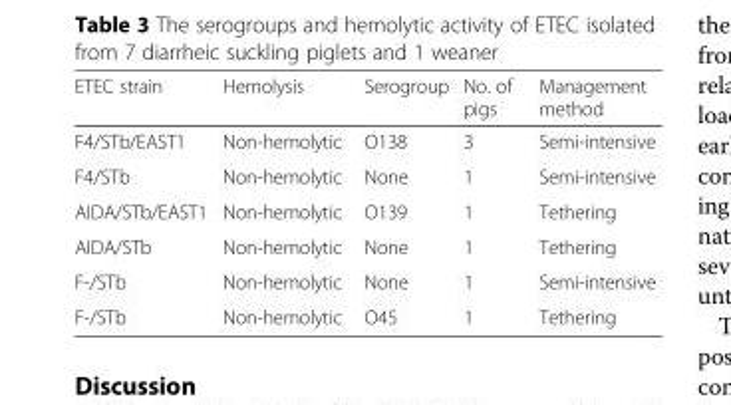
<table><thead><tr><td>ETEC strain</td><td>Hemolysis</td><td>Serogroup</td><td>No. of pigs</td><td>Management method</td></tr></thead><tbody><tr><td>F4/STb/EAST1</td><td>Non-hemolytic</td><td>O138</td><td>3</td><td>Semi-intensive</td></tr><tr><td>F4/STb</td><td>Non-hemolytic</td><td>None</td><td>1</td><td>Semi-intensive</td></tr><tr><td>AIDA/STb/EAST1</td><td>Non-hemolytic</td><td>O139</td><td>1</td><td>Tethering</td></tr><tr><td>AIDA/STb</td><td>Non-hemolytic</td><td>None</td><td>1</td><td>Tethering</td></tr><tr><td>F-/STb</td><td>Non-hemolytic</td><td>None</td><td>1</td><td>Semi-intensive</td></tr><tr><td>F-/STb</td><td>Non-hemolytic</td><td>O45</td><td>1</td><td>Tethering</td></tr></tbody></table>